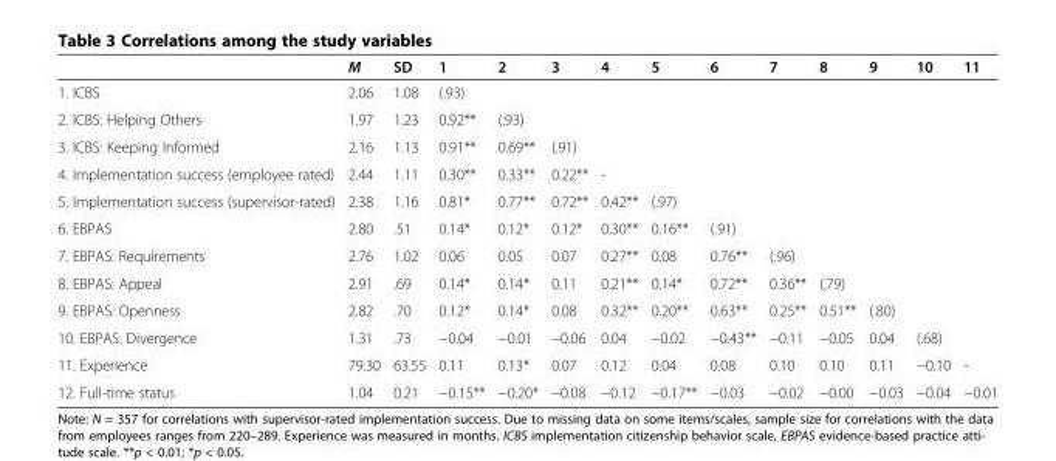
<table><thead><tr><td></td><td>M</td><td>SD</td><td>1</td><td>2</td><td>3</td><td>4</td><td>5</td><td>6</td><td>7</td><td>8</td><td>9</td><td>10</td><td>11</td></tr></thead><tbody><tr><td>1. ICBS</td><td>2.06</td><td>1.08</td><td>(.93)</td><td></td><td></td><td></td><td></td><td></td><td></td><td></td><td></td><td></td><td></td></tr><tr><td>2. ICBS: Helping Others</td><td>1.97</td><td>1.23</td><td>0.92**</td><td>(.93)</td><td></td><td></td><td></td><td></td><td></td><td></td><td></td><td></td><td></td></tr><tr><td>3. ICBS: Keeping Informed</td><td>2.16</td><td>1.13</td><td>0.91**</td><td>0.69**</td><td>(.91)</td><td></td><td></td><td></td><td></td><td></td><td></td><td></td><td></td></tr><tr><td>4. Implementation success (employee rated)</td><td>2.44</td><td>1.11</td><td>0.30**</td><td>0.33**</td><td>0.22**</td><td>-</td><td></td><td></td><td></td><td></td><td></td><td></td><td></td></tr><tr><td>5. Implementation success (supervisor-rated)</td><td>2.38</td><td>1.16</td><td>0.81*</td><td>0.77**</td><td>0.72**</td><td>0.42**</td><td>(.97)</td><td></td><td></td><td></td><td></td><td></td><td></td></tr><tr><td>6. EBPAS</td><td>2.80</td><td>.51</td><td>0.14*</td><td>0.12*</td><td>0.12*</td><td>0.30**</td><td>0.16**</td><td>(.91)</td><td></td><td></td><td></td><td></td><td></td></tr><tr><td>7. EBPAS: Requirements</td><td>2.76</td><td>1.02</td><td>0.06</td><td>0.05</td><td>0.07</td><td>0.27**</td><td>0.08</td><td>0.76**</td><td>(.96)</td><td></td><td></td><td></td><td></td></tr><tr><td>8. EBPAS: Appeal</td><td>2.91</td><td>.69</td><td>0.14*</td><td>0.14*</td><td>0.11</td><td>0.21**</td><td>0.14*</td><td>0.72**</td><td>0.36**</td><td>(.79)</td><td></td><td></td><td></td></tr><tr><td>9. EBPAS: Openness</td><td>2.82</td><td>.70</td><td>0.12*</td><td>0.14*</td><td>0.08</td><td>0.32**</td><td>0.20**</td><td>0.63**</td><td>0.25**</td><td>0.51**</td><td>(.80)</td><td></td><td></td></tr><tr><td>10. EBPAS: Divergence</td><td>1.31</td><td>.73</td><td>−0.04</td><td>−0.01</td><td>−0.06</td><td>0.04</td><td>−0.02</td><td>−0.43**</td><td>−0.11</td><td>−0.05</td><td>0.04</td><td>(.68)</td><td></td></tr><tr><td>11. Experience</td><td>79.30</td><td>63.55</td><td>0.11</td><td>0.13*</td><td>0.07</td><td>0.12</td><td>0.04</td><td>0.08</td><td>0.10</td><td>0.10</td><td>0.11</td><td>−0.10</td><td>-</td></tr><tr><td>12. Full-time status</td><td>1.04</td><td>0.21</td><td>−0.15**</td><td>−0.20*</td><td>−0.08</td><td>−0.12</td><td>−0.17**</td><td>−0.03</td><td>−0.02</td><td>−0.00</td><td>−0.03</td><td>−0.04</td><td>−0.01</td></tr></tbody></table>